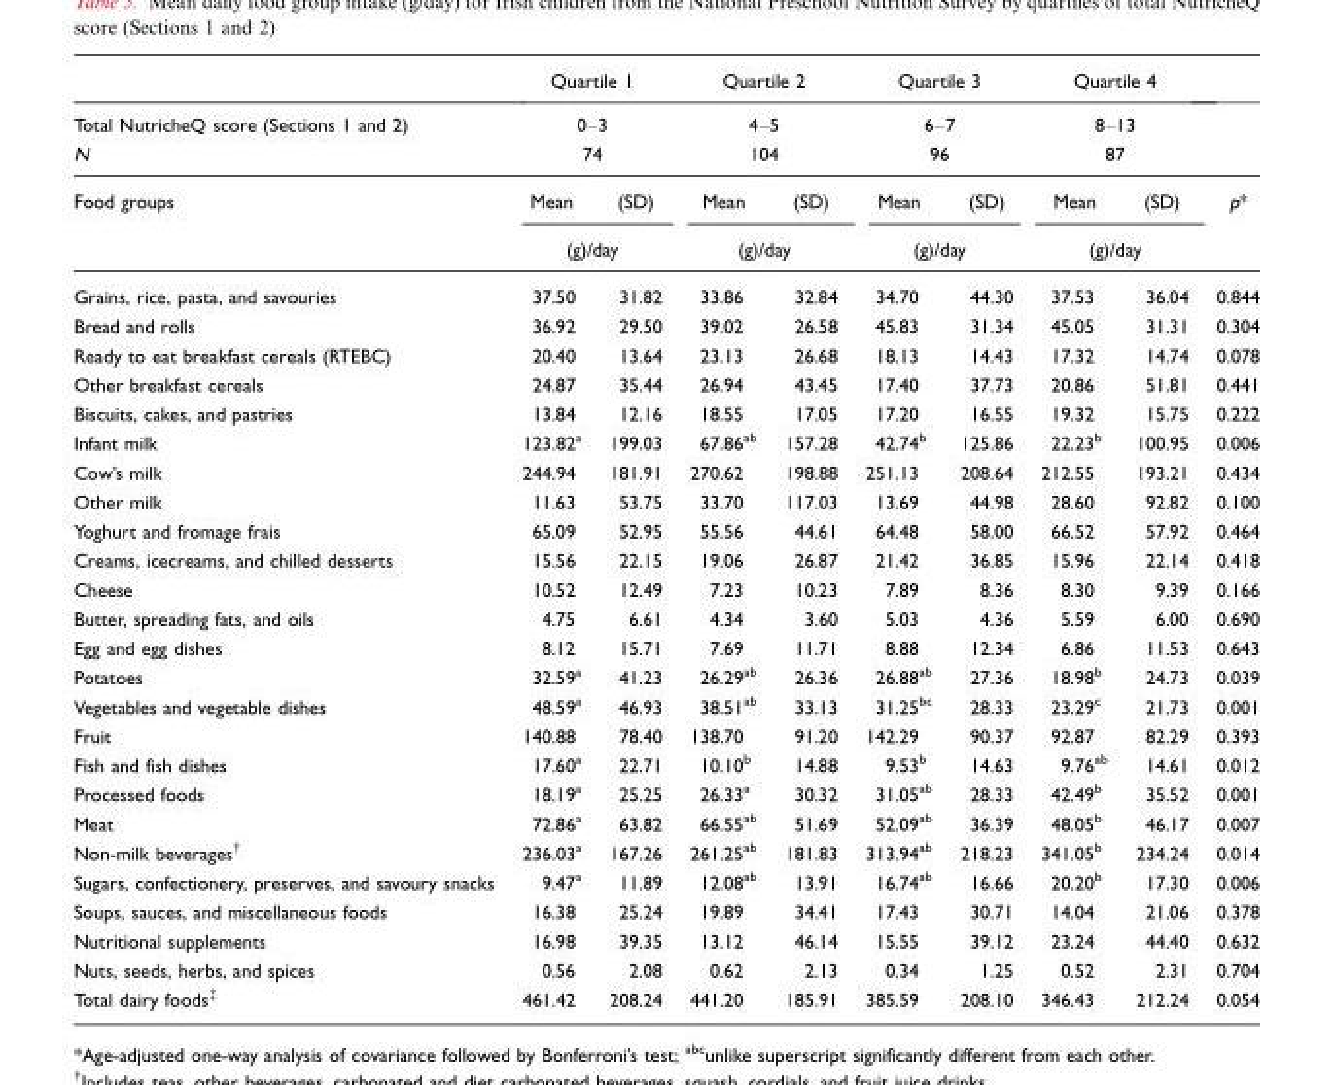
<table><thead><tr><td rowspan="4">Total NutricheQ score (Sections 1 and 2) N Food groups</td><td rowspan="3" colspan="2">Quartile 1 0–3 74</td><td rowspan="3" colspan="2">Quartile 2 4–5 104</td><td rowspan="3" colspan="2">Quartile 3 6–7 96</td><td rowspan="3" colspan="2">Quartile 4 8–13 87</td><td rowspan="4">p*</td></tr><tr></tr><tr></tr><tr><td>Mean</td><td>(SD)</td><td>Mean</td><td>(SD)</td><td>Mean</td><td>(SD)</td><td>Mean</td><td>(SD)</td></tr></thead><tbody><tr><td></td><td colspan="2">(g)/day</td><td colspan="2">(g)/day</td><td colspan="2">(g)/day</td><td colspan="2">(g)/day</td><td></td></tr><tr><td>Grains, rice, pasta, and savouries</td><td>37.50</td><td>31.82</td><td>33.86</td><td>32.84</td><td>34.70</td><td>44.30</td><td>37.53</td><td>36.04</td><td>0.844</td></tr><tr><td>Bread and rolls</td><td>36.92</td><td>29.50</td><td>39.02</td><td>26.58</td><td>45.83</td><td>31.34</td><td>45.05</td><td>31.31</td><td>0.304</td></tr><tr><td>Ready to eat breakfast cereals (RTEBC)</td><td>20.40</td><td>13.64</td><td>23.13</td><td>26.68</td><td>18.13</td><td>14.43</td><td>17.32</td><td>14.74</td><td>0.078</td></tr><tr><td>Other breakfast cereals</td><td>24.87</td><td>35.44</td><td>26.94</td><td>43.45</td><td>17.40</td><td>37.73</td><td>20.86</td><td>51.81</td><td>0.441</td></tr><tr><td>Biscuits, cakes, and pastries</td><td>13.84</td><td>12.16</td><td>18.55</td><td>17.05</td><td>17.20</td><td>16.55</td><td>19.32</td><td>15.75</td><td>0.222</td></tr><tr><td>Infant milk</td><td>123.82<sup>a</sup></td><td>199.03</td><td>67.86<sup>ab</sup></td><td>157.28</td><td>42.74<sup>b</sup></td><td>125.86</td><td>22.23<sup>b</sup></td><td>100.95</td><td>0.006</td></tr><tr><td>Cow’s milk</td><td>244.94</td><td>181.91</td><td>270.62</td><td>198.88</td><td>251.13</td><td>208.64</td><td>212.55</td><td>193.21</td><td>0.434</td></tr><tr><td>Other milk</td><td>11.63</td><td>53.75</td><td>33.70</td><td>117.03</td><td>13.69</td><td>44.98</td><td>28.60</td><td>92.82</td><td>0.100</td></tr><tr><td>Yoghurt and fromage frais</td><td>65.09</td><td>52.95</td><td>55.56</td><td>44.61</td><td>64.48</td><td>58.00</td><td>66.52</td><td>57.92</td><td>0.464</td></tr><tr><td>Creams, icecreams, and chilled desserts</td><td>15.56</td><td>22.15</td><td>19.06</td><td>26.87</td><td>21.42</td><td>36.85</td><td>15.96</td><td>22.14</td><td>0.418</td></tr><tr><td>Cheese</td><td>10.52</td><td>12.49</td><td>7.23</td><td>10.23</td><td>7.89</td><td>8.36</td><td>8.30</td><td>9.39</td><td>0.166</td></tr><tr><td>Butter, spreading fats, and oils</td><td>4.75</td><td>6.61</td><td>4.34</td><td>3.60</td><td>5.03</td><td>4.36</td><td>5.59</td><td>6.00</td><td>0.690</td></tr><tr><td>Egg and egg dishes</td><td>8.12</td><td>15.71</td><td>7.69</td><td>11.71</td><td>8.88</td><td>12.34</td><td>6.86</td><td>11.53</td><td>0.643</td></tr><tr><td>Potatoes</td><td>32.59<sup>a</sup></td><td>41.23</td><td>26.29<sup>ab</sup></td><td>26.36</td><td>26.88<sup>ab</sup></td><td>27.36</td><td>18.98<sup>b</sup></td><td>24.73</td><td>0.039</td></tr><tr><td>Vegetables and vegetable dishes</td><td>48.59<sup>a</sup></td><td>46.93</td><td>38.51<sup>ab</sup></td><td>33.13</td><td>31.25<sup>bc</sup></td><td>28.33</td><td>23.29<sup>c</sup></td><td>21.73</td><td>0.001</td></tr><tr><td>Fruit</td><td>140.88</td><td>78.40</td><td>138.70</td><td>91.20</td><td>142.29</td><td>90.37</td><td>92.87</td><td>82.29</td><td>0.393</td></tr><tr><td>Fish and fish dishes</td><td>17.60<sup>a</sup></td><td>22.71</td><td>10.10<sup>b</sup></td><td>14.88</td><td>9.53<sup>b</sup></td><td>14.63</td><td>9.76<sup>ab</sup></td><td>14.61</td><td>0.012</td></tr><tr><td>Processed foods</td><td>18.19<sup>a</sup></td><td>25.25</td><td>26.33<sup>a</sup></td><td>30.32</td><td>31.05<sup>ab</sup></td><td>28.33</td><td>42.49<sup>b</sup></td><td>35.52</td><td>0.001</td></tr><tr><td>Meat</td><td>72.86<sup>a</sup></td><td>63.82</td><td>66.55<sup>ab</sup></td><td>51.69</td><td>52.09<sup>ab</sup></td><td>36.39</td><td>48.05<sup>b</sup></td><td>46.17</td><td>0.007</td></tr><tr><td>Non-milk beverages†</td><td>236.03<sup>a</sup></td><td>167.26</td><td>261.25<sup>ab</sup></td><td>181.83</td><td>313.94<sup>ab</sup></td><td>218.23</td><td>341.05<sup>b</sup></td><td>234.24</td><td>0.014</td></tr><tr><td>Sugars, confectionery, preserves, and savoury snacks</td><td>9.47<sup>a</sup></td><td>11.89</td><td>12.08<sup>ab</sup></td><td>13.91</td><td>16.74<sup>ab</sup></td><td>16.66</td><td>20.20<sup>b</sup></td><td>17.30</td><td>0.006</td></tr><tr><td>Soups, sauces, and miscellaneous foods</td><td>16.38</td><td>25.24</td><td>19.89</td><td>34.41</td><td>17.43</td><td>30.71</td><td>14.04</td><td>21.06</td><td>0.378</td></tr><tr><td>Nutritional supplements</td><td>16.98</td><td>39.35</td><td>13.12</td><td>46.14</td><td>15.55</td><td>39.12</td><td>23.24</td><td>44.40</td><td>0.632</td></tr><tr><td>Nuts, seeds, herbs, and spices</td><td>0.56</td><td>2.08</td><td>0.62</td><td>2.13</td><td>0.34</td><td>1.25</td><td>0.52</td><td>2.31</td><td>0.704</td></tr><tr><td>Total dairy foods‡</td><td>461.42</td><td>208.24</td><td>441.20</td><td>185.91</td><td>385.59</td><td>208.10</td><td>346.43</td><td>212.24</td><td>0.054</td></tr></tbody></table>